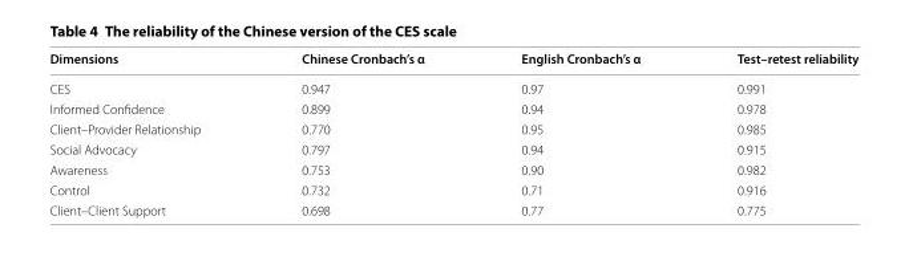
<table><thead><tr><td>Dimensions</td><td>Chinese Cronbach’s α</td><td>English Cronbach’s α</td><td>Test–retest reliability</td></tr></thead><tbody><tr><td>CES</td><td>0.947</td><td>0.97</td><td>0.991</td></tr><tr><td>Informed Confidence</td><td>0.899</td><td>0.94</td><td>0.978</td></tr><tr><td>Client–Provider Relationship</td><td>0.770</td><td>0.95</td><td>0.985</td></tr><tr><td>Social Advocacy</td><td>0.797</td><td>0.94</td><td>0.915</td></tr><tr><td>Awareness</td><td>0.753</td><td>0.90</td><td>0.982</td></tr><tr><td>Control</td><td>0.732</td><td>0.71</td><td>0.916</td></tr><tr><td>Client–Client Support</td><td>0.698</td><td>0.77</td><td>0.775</td></tr></tbody></table>